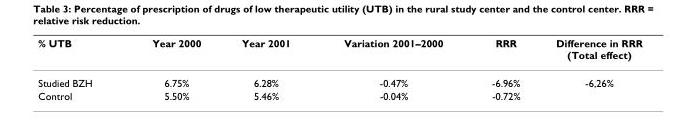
<table><thead><tr><td>% UTB</td><td>Year 2000</td><td>Year 2001</td><td>Variation 2001–2000</td><td>RRR</td><td>Difference in RRR (Total effect)</td></tr></thead><tbody><tr><td>Studied BZH</td><td>6.75%</td><td>6.28%</td><td>-0.47%</td><td>-6.96%</td><td>-6,26%</td></tr><tr><td>Control</td><td>5.50%</td><td>5.46%</td><td>-0.04%</td><td>-0.72%</td><td></td></tr></tbody></table>